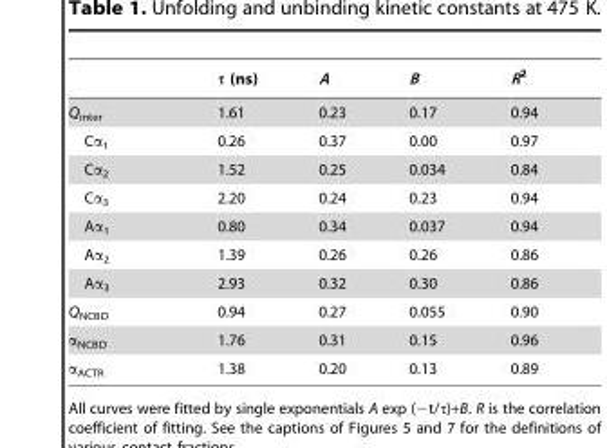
<table><thead><tr><td></td><td>τ (ns)</td><td>A</td><td>B</td><td>R<sup>2</sup></td></tr></thead><tbody><tr><td>Q<sub>inter</sub></td><td>1.61</td><td>0.23</td><td>0.17</td><td>0.94</td></tr><tr><td>Cα<sub>1</sub></td><td>0.26</td><td>0.37</td><td>0.00</td><td>0.97</td></tr><tr><td>Cα<sub>2</sub></td><td>1.52</td><td>0.25</td><td>0.034</td><td>0.84</td></tr><tr><td>Cα<sub>3</sub></td><td>2.20</td><td>0.24</td><td>0.23</td><td>0.94</td></tr><tr><td>Aα<sub>1</sub></td><td>0.80</td><td>0.34</td><td>0.037</td><td>0.94</td></tr><tr><td>Aα<sub>2</sub></td><td>1.39</td><td>0.26</td><td>0.26</td><td>0.86</td></tr><tr><td>Aα<sub>3</sub></td><td>2.93</td><td>0.32</td><td>0.30</td><td>0.86</td></tr><tr><td>Q<sub>NCBD</sub></td><td>0.94</td><td>0.27</td><td>0.055</td><td>0.90</td></tr><tr><td>α<sub>NCBD</sub></td><td>1.76</td><td>0.31</td><td>0.15</td><td>0.96</td></tr><tr><td>α<sub>ACTR</sub></td><td>1.38</td><td>0.20</td><td>0.13</td><td>0.89</td></tr></tbody></table>